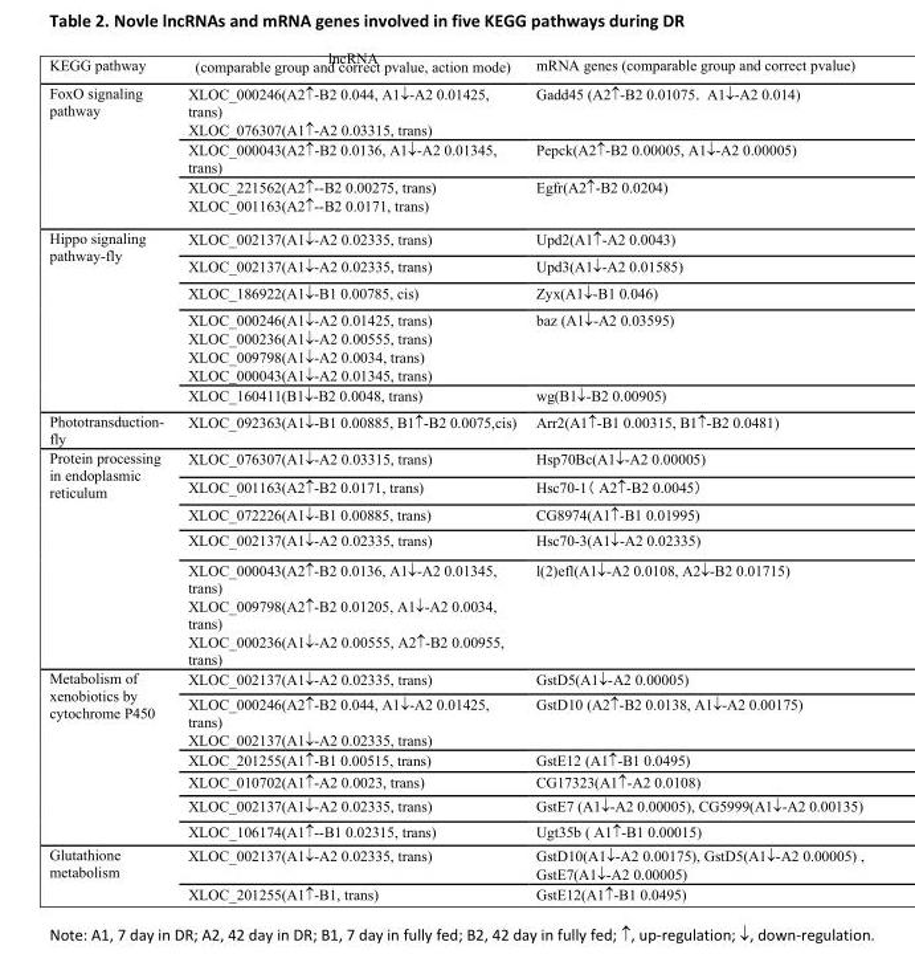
<table><thead><tr><td>KEGG pathway</td><td>lncRNA (comparable group and correct pvalue, action mode)</td><td>mRNA genes (comparable group and correct pvalue)</td></tr></thead><tbody><tr><td rowspan="3">FoxO signaling pathway</td><td>XLOC_000246(A2↑-B2 0.044, A1↓-A2 0.01425, trans) XLOC_076307(A1↑-A2 0.03315, trans)</td><td>Gadd45 (A2↑-B2 0.01075，A1↓-A2 0.014)</td></tr><tr><td>XLOC_000043(A2↑-B2 0.0136, A1↓-A2 0.01345, trans)</td><td>Pepck(A2↑-B2 0.00005, A1↓-A2 0.00005)</td></tr><tr><td>XLOC_221562(A2↑--B2 0.00275, trans) XLOC_001163(A2↑--B2 0.0171, trans)</td><td>Egfr(A2↑-B2 0.0204)</td></tr><tr><td rowspan="5">Hippo signaling pathway-fly</td><td>XLOC_002137(A1↓-A2 0.02335, trans)</td><td>Upd2(A1↑-A2 0.0043)</td></tr><tr><td>XLOC_002137(A1↓-A2 0.02335, trans)</td><td>Upd3(A1↓-A2 0.01585)</td></tr><tr><td>XLOC_186922(A1↓-B1 0.00785, cis)</td><td>Zyx(A1↓-B1 0.046)</td></tr><tr><td>XLOC_000246(A1↓-A2 0.01425, trans) XLOC_000236(A1↓-A2 0.00555, trans) XLOC_009798(A1↓-A2 0.0034, trans) XLOC_000043(A1↓-A2 0.01345, trans)</td><td>baz (A1↓-A2 0.03595)</td></tr><tr><td>XLOC_160411(B1↓-B2 0.0048, trans)</td><td>wg(B1↓-B2 0.00905)</td></tr><tr><td>Phototransduction- fly</td><td>XLOC_092363(A1↓-B1 0.00885, B1↑-B2 0.0075,cis)</td><td>Arr2(A1↑-B1 0.00315, B1↑-B2 0.0481)</td></tr><tr><td rowspan="5">Protein processing in endoplasmic reticulum</td><td>XLOC_076307(A1↓-A2 0.03315, trans)</td><td>Hsp70Bc(A1↓-A2 0.00005)</td></tr><tr><td>XLOC_001163(A2↑-B2 0.0171, trans)</td><td>Hsc70-1（ A2↑-B2 0.0045）</td></tr><tr><td>XLOC_072226(A1↓-B1 0.00885, trans)</td><td>CG8974(A1↑-B1 0.01995)</td></tr><tr><td>XLOC_002137(A1↓-A2 0.02335, trans)</td><td>Hsc70-3(A1↓-A2 0.02335)</td></tr><tr><td>XLOC_000043(A2↑-B2 0.0136, A1↓-A2 0.01345, trans) XLOC_009798(A2↑-B2 0.01205, A1↓-A2 0.0034, trans) XLOC_000236(A1↓-A2 0.00555, A2↑-B2 0.00955, trans)</td><td>l(2)efl(A1↓-A2 0.0108, A2↓-B2 0.01715)</td></tr><tr><td rowspan="6">Metabolism of xenobiotics by cytochrome P450</td><td>XLOC_002137(A1↓-A2 0.02335, trans)</td><td>GstD5(A1↓-A2 0.00005)</td></tr><tr><td>XLOC_000246(A2↑-B2 0.044, A1↓-A2 0.01425, trans) XLOC_002137(A1↓-A2 0.02335, trans)</td><td>GstD10 (A2↑-B2 0.0138, A1↓-A2 0.00175)</td></tr><tr><td>XLOC_201255(A1↑-B1 0.00515, trans)</td><td>GstE12 (A1↑-B1 0.0495)</td></tr><tr><td>XLOC_010702(A1↑-A2 0.0023, trans)</td><td>CG17323(A1↑-A2 0.0108)</td></tr><tr><td>XLOC_002137(A1↓-A2 0.02335, trans)</td><td>GstE7 (A1↓-A2 0.00005), CG5999(A1↓-A2 0.00135)</td></tr><tr><td>XLOC_106174(A1↑--B1 0.02315, trans)</td><td>Ugt35b ( A1↑-B1 0.00015)</td></tr><tr><td rowspan="2">Glutathione metabolism</td><td>XLOC_002137(A1↓-A2 0.02335, trans)</td><td>GstD10(A1↓-A2 0.00175), GstD5(A1↓-A2 0.00005) , GstE7(A1↓-A2 0.00005)</td></tr><tr><td>XLOC_201255(A1↑-B1, trans)</td><td>GstE12(A1↑-B1 0.0495)</td></tr></tbody></table>